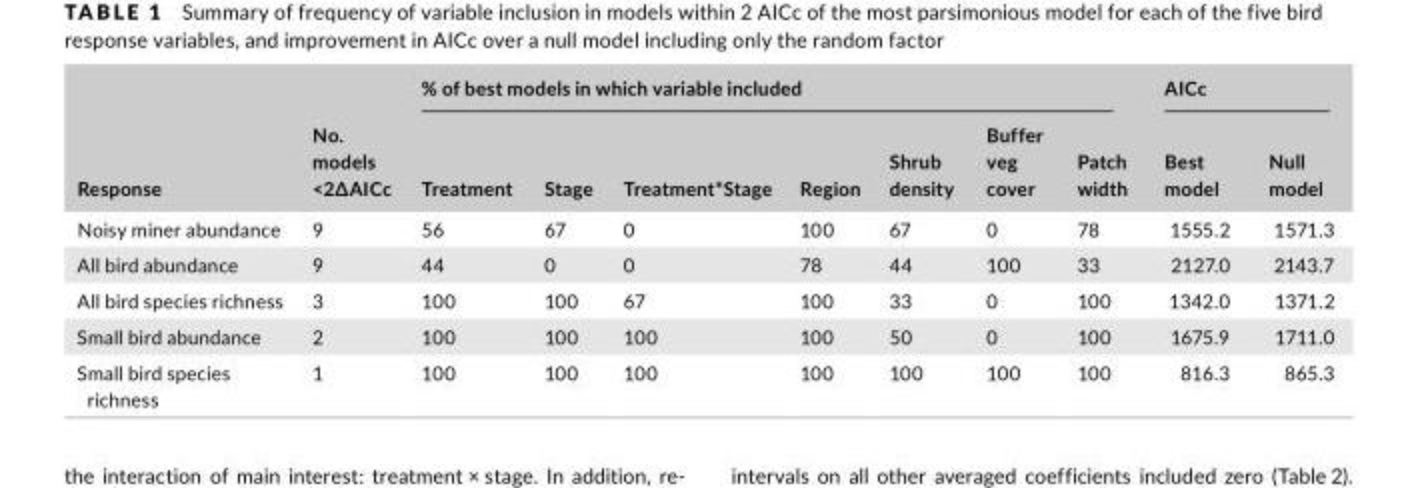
<table><thead><tr><td rowspan="2">Response</td><td rowspan="2">No. models &lt;2∆AICc</td><td colspan="7">% of best models in which variable included</td><td colspan="2">AICc</td></tr><tr><td>Treatment</td><td>Stage</td><td>Treatment*Stage</td><td>Region</td><td>Shrub density</td><td>Buffer veg cover</td><td>Patch width</td><td>Best model</td><td>Null model</td></tr></thead><tbody><tr><td>Noisy miner abundance</td><td>9</td><td>56</td><td>67</td><td>0</td><td>100</td><td>67</td><td>0</td><td>78</td><td>1555.2</td><td>1571.3</td></tr><tr><td>All bird abundance</td><td>9</td><td>44</td><td>0</td><td>0</td><td>78</td><td>44</td><td>100</td><td>33</td><td>2127.0</td><td>2143.7</td></tr><tr><td>All bird species richness</td><td>3</td><td>100</td><td>100</td><td>67</td><td>100</td><td>33</td><td>0</td><td>100</td><td>1342.0</td><td>1371.2</td></tr><tr><td>Small bird abundance</td><td>2</td><td>100</td><td>100</td><td>100</td><td>100</td><td>50</td><td>0</td><td>100</td><td>1675.9</td><td>1711.0</td></tr><tr><td>Small bird species richness</td><td>1</td><td>100</td><td>100</td><td>100</td><td>100</td><td>100</td><td>100</td><td>100</td><td>816.3</td><td>865.3</td></tr></tbody></table>